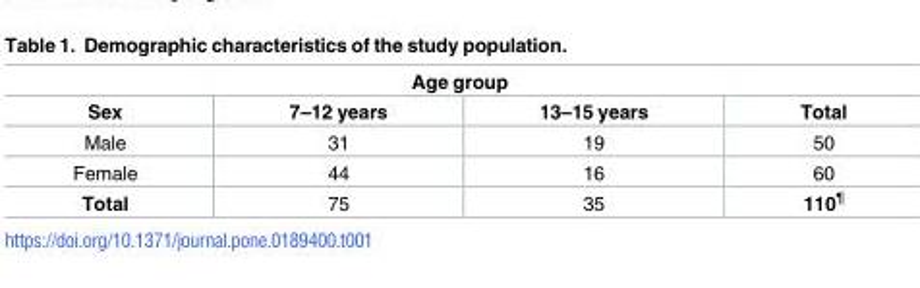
<table><thead><tr><td colspan="4">Age group</td></tr><tr><td>Sex</td><td>7–12 years</td><td>13–15 years</td><td>Total</td></tr></thead><tbody><tr><td>Male</td><td>31</td><td>19</td><td>50</td></tr><tr><td>Female</td><td>44</td><td>16</td><td>60</td></tr><tr><td>Total</td><td>75</td><td>35</td><td>110<sup>¶</sup></td></tr></tbody></table>